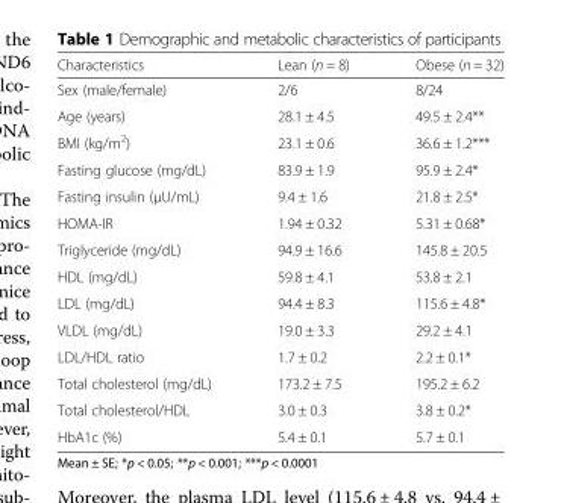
<table><thead><tr><td>Characteristics</td><td>Lean (n = 8)</td><td>Obese (n = 32)</td></tr></thead><tbody><tr><td>Sex (male/female)</td><td>2/6</td><td>8/24</td></tr><tr><td>Age (years)</td><td>28.1 ± 4.5</td><td>49.5 ± 2.4**</td></tr><tr><td>BMI (kg/m<sup>2</sup>)</td><td>23.1 ± 0.6</td><td>36.6 ± 1.2***</td></tr><tr><td>Fasting glucose (mg/dL)</td><td>83.9 ± 1.9</td><td>95.9 ± 2.4*</td></tr><tr><td>Fasting insulin (μU/mL)</td><td>9.4 ± 1.6</td><td>21.8 ± 2.5*</td></tr><tr><td>HOMA-IR</td><td>1.94 ± 0.32</td><td>5.31 ± 0.68*</td></tr><tr><td>Triglyceride (mg/dL)</td><td>94.9 ± 16.6</td><td>145.8 ± 20.5</td></tr><tr><td>HDL (mg/dL)</td><td>59.8 ± 4.1</td><td>53.8 ± 2.1</td></tr><tr><td>LDL (mg/dL)</td><td>94.4 ± 8.3</td><td>115.6 ± 4.8*</td></tr><tr><td>VLDL (mg/dL)</td><td>19.0 ± 3.3</td><td>29.2 ± 4.1</td></tr><tr><td>LDL/HDL ratio</td><td>1.7 ± 0.2</td><td>2.2 ± 0.1*</td></tr><tr><td>Total cholesterol (mg/dL)</td><td>173.2 ± 7.5</td><td>195.2 ± 6.2</td></tr><tr><td>Total cholesterol/HDL</td><td>3.0 ± 0.3</td><td>3.8 ± 0.2*</td></tr><tr><td>HbA1c (%)</td><td>5.4 ± 0.1</td><td>5.7 ± 0.1</td></tr></tbody></table>